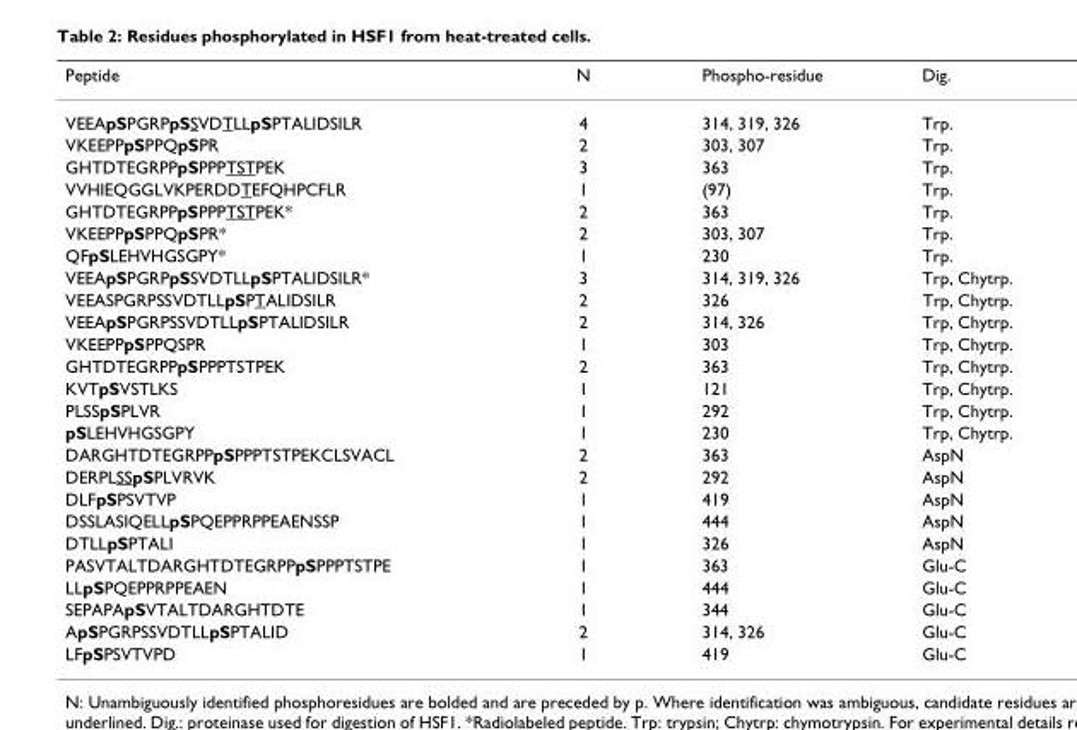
<table><thead><tr><td>Peptide</td><td>N</td><td>Phospho-residue</td><td>Dig.</td></tr></thead><tbody><tr><td>VEEApSPGRPpSSVDTLLpSPTALIDSILR</td><td>4</td><td>314, 319, 326</td><td>Trp.</td></tr><tr><td>VKEEPPpSPPQpSPR</td><td>2</td><td>303, 307</td><td>Trp.</td></tr><tr><td>GHTDTEGRPPpSPPPTSTPEK</td><td>3</td><td>363</td><td>Trp.</td></tr><tr><td>VVHIEQGGLVKPERDDTEFQHPCFLR</td><td>1</td><td>(97)</td><td>Trp.</td></tr><tr><td>GHTDTEGRPPpSPPPTSTPEK*</td><td>2</td><td>363</td><td>Trp.</td></tr><tr><td>VKEEPPpSPPQpSPR*</td><td>2</td><td>303, 307</td><td>Trp.</td></tr><tr><td>QFpSLEHVHGSGPY*</td><td>1</td><td>230</td><td>Trp.</td></tr><tr><td>VEEApSPGRPpSSVDTLLpSPTALIDSILR*</td><td>3</td><td>314, 319, 326</td><td>Trp, Chytrp.</td></tr><tr><td>VEEASPGRPSSVDTLLpSPTALIDSILR</td><td>2</td><td>326</td><td>Trp, Chytrp.</td></tr><tr><td>VEEApSPGRPSSVDTLLpSPTALIDSILR</td><td>2</td><td>314, 326</td><td>Trp, Chytrp.</td></tr><tr><td>VKEEPPpSPPQSPR</td><td>1</td><td>303</td><td>Trp, Chytrp.</td></tr><tr><td>GHTDTEGRPPpSPPPTSTPEK</td><td>2</td><td>363</td><td>Trp, Chytrp.</td></tr><tr><td>KVTpSVSTLKS</td><td>1</td><td>121</td><td>Trp, Chytrp.</td></tr><tr><td>PLSSpSPLVR</td><td>1</td><td>292</td><td>Trp, Chytrp.</td></tr><tr><td>pSLEHVHGSGPY</td><td>1</td><td>230</td><td>Trp, Chytrp.</td></tr><tr><td>DARGHTDTEGRPPpSPPPTSTPEKCLSVACL</td><td>2</td><td>363</td><td>AspN</td></tr><tr><td>DERPLSSpSPLVRVK</td><td>2</td><td>292</td><td>AspN</td></tr><tr><td>DLFpSPSVTVP</td><td>1</td><td>419</td><td>AspN</td></tr><tr><td>DSSLASIQELLpSPQEPPRPPEAENSSP</td><td>1</td><td>444</td><td>AspN</td></tr><tr><td>DTLLpSPTALI</td><td>1</td><td>326</td><td>AspN</td></tr><tr><td>PASVTALTDARGHTDTEGRPPpSPPPTSTPE</td><td>1</td><td>363</td><td>Glu-C</td></tr><tr><td>LLpSPQEPPRPPEAEN</td><td>1</td><td>444</td><td>Glu-C</td></tr><tr><td>SEPAPApSVTALTDARGHTDTE</td><td>1</td><td>344</td><td>Glu-C</td></tr><tr><td>ApSPGRPSSVDTLLpSPTALID</td><td>2</td><td>314, 326</td><td>Glu-C</td></tr><tr><td>LFpSPSVTVPD</td><td>1</td><td>419</td><td>Glu-C</td></tr></tbody></table>